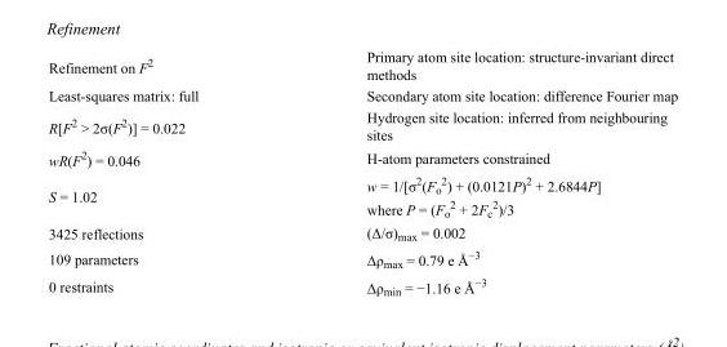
<table><tbody><tr><td>Refinement on F<sup>2</sup></td><td>Primary atom site location: structure-invariant direct methods</td></tr><tr><td>Least-squares matrix: full</td><td>Secondary atom site location: difference Fourier map</td></tr><tr><td>R[F<sup>2</sup> &gt; 2σ(F<sup>2</sup>)] = 0.022</td><td>Hydrogen site location: inferred from neighbouring sites</td></tr><tr><td>wR(F<sup>2</sup>) = 0.046</td><td>H-atom parameters constrained</td></tr><tr><td>S = 1.02</td><td>w = 1/[σ<sup>2</sup>(F<sub>o</sub> <sup>2</sup>) + (0.0121P)<sup>2</sup> + 2.6844P] where P = (F<sub>o</sub> <sup>2</sup> + 2F<sub>c</sub> <sup>2</sup>)/3</td></tr><tr><td>3425 reflections</td><td>(Δ/σ)<sub>max</sub> = 0.002</td></tr><tr><td>109 parameters</td><td>Δρ<sub>max</sub> = 0.79 e Å<sup>−3</sup></td></tr><tr><td>0 restraints</td><td>Δρ<sub>min</sub> = −1.16 e Å<sup>−3</sup></td></tr></tbody></table>